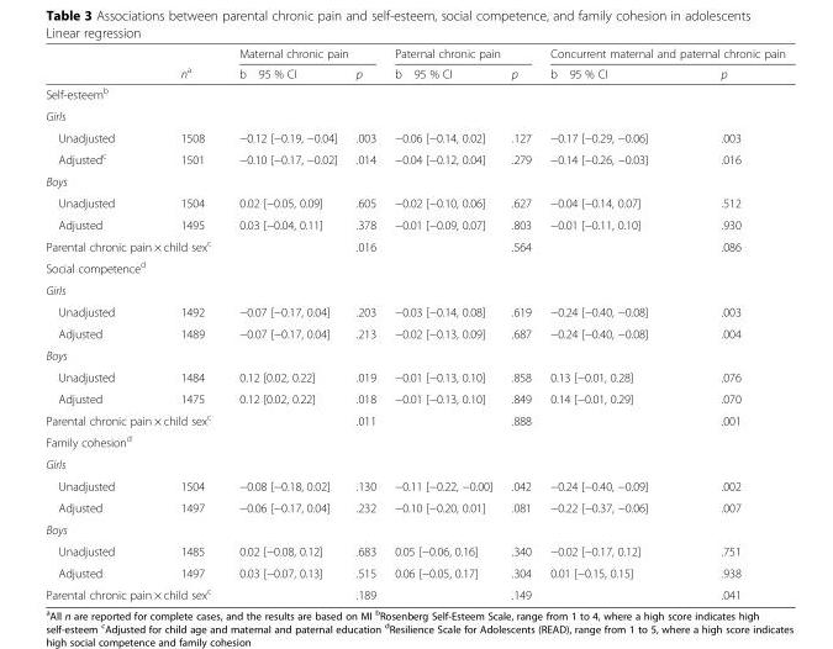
<table><thead><tr><td rowspan="2"></td><td rowspan="2">n<sup>a</sup></td><td colspan="2">Maternal chronic pain</td><td colspan="2">Paternal chronic pain</td><td colspan="2">Concurrent maternal and paternal chronic pain</td></tr><tr><td>b 95 % CI</td><td>p</td><td>b 95 % CI</td><td>p</td><td>b 95 % CI</td><td>p</td></tr></thead><tbody><tr><td colspan="8">Self-esteem<sup>b</sup></td></tr><tr><td colspan="8">Girls</td></tr><tr><td>Unadjusted</td><td>1508</td><td>−0.12 [−0.19, −0.04]</td><td>.003</td><td>−0.06 [−0.14, 0.02]</td><td>.127</td><td>−0.17 [−0.29, −0.06]</td><td>.003</td></tr><tr><td>Adjusted<sup>c</sup></td><td>1501</td><td>−0.10 [−0.17, −0.02]</td><td>.014</td><td>−0.04 [−0.12, 0.04]</td><td>.279</td><td>−0.14 [−0.26, −0.03]</td><td>.016</td></tr><tr><td colspan="8">Boys</td></tr><tr><td>Unadjusted</td><td>1504</td><td>0.02 [−0.05, 0.09]</td><td>.605</td><td>−0.02 [−0.10, 0.06]</td><td>.627</td><td>−0.04 [−0.14, 0.07]</td><td>.512</td></tr><tr><td>Adjusted</td><td>1495</td><td>0.03 [−0.04, 0.11]</td><td>.378</td><td>−0.01 [−0.09, 0.07]</td><td>.803</td><td>−0.01 [−0.11, 0.10]</td><td>.930</td></tr><tr><td colspan="2">Parental chronic pain × child sex<sup>c</sup></td><td></td><td>.016</td><td></td><td>.564</td><td></td><td>.086</td></tr><tr><td colspan="8">Social competence<sup>d</sup></td></tr><tr><td colspan="8">Girls</td></tr><tr><td>Unadjusted</td><td>1492</td><td>−0.07 [−0.17, 0.04]</td><td>.203</td><td>−0.03 [−0.14, 0.08]</td><td>.619</td><td>−0.24 [−0.40, −0.08]</td><td>.003</td></tr><tr><td>Adjusted</td><td>1489</td><td>−0.07 [−0.17, 0.04]</td><td>.213</td><td>−0.02 [−0.13, 0.09]</td><td>.687</td><td>−0.24 [−0.40, −0.08]</td><td>.004</td></tr><tr><td colspan="8">Boys</td></tr><tr><td>Unadjusted</td><td>1484</td><td>0.12 [0.02, 0.22]</td><td>.019</td><td>−0.01 [−0.13, 0.10]</td><td>.858</td><td>0.13 [−0.01, 0.28]</td><td>.076</td></tr><tr><td>Adjusted</td><td>1475</td><td>0.12 [0.02, 0.22]</td><td>.018</td><td>−0.01 [−0.13, 0.10]</td><td>.849</td><td>0.14 [−0.01, 0.29]</td><td>.070</td></tr><tr><td colspan="2">Parental chronic pain × child sex<sup>c</sup></td><td></td><td>.011</td><td></td><td>.888</td><td></td><td>.001</td></tr><tr><td colspan="8">Family cohesion<sup>d</sup></td></tr><tr><td colspan="8">Girls</td></tr><tr><td>Unadjusted</td><td>1504</td><td>−0.08 [−0.18, 0.02]</td><td>.130</td><td>−0.11 [−0.22, −0.00]</td><td>.042</td><td>−0.24 [−0.40, −0.09]</td><td>.002</td></tr><tr><td>Adjusted</td><td>1497</td><td>−0.06 [−0.17, 0.04]</td><td>.232</td><td>−0.10 [−0.20, 0.01]</td><td>.081</td><td>−0.22 [−0.37, −0.06]</td><td>.007</td></tr><tr><td colspan="8">Boys</td></tr><tr><td>Unadjusted</td><td>1485</td><td>0.02 [−0.08, 0.12]</td><td>.683</td><td>0.05 [−0.06, 0.16]</td><td>.340</td><td>−0.02 [−0.17, 0.12]</td><td>.751</td></tr><tr><td>Adjusted</td><td>1497</td><td>0.03 [−0.07, 0.13]</td><td>.515</td><td>0.06 [−0.05, 0.17]</td><td>.304</td><td>0.01 [−0.15, 0.15]</td><td>.938</td></tr><tr><td colspan="2">Parental chronic pain × child sex<sup>c</sup></td><td></td><td>.189</td><td></td><td>.149</td><td></td><td>.041</td></tr></tbody></table>